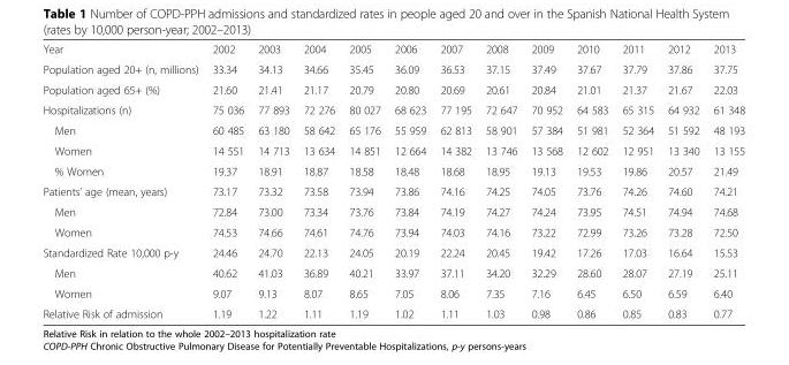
<table><tbody><tr><td>Year</td><td>2002</td><td>2003</td><td>2004</td><td>2005</td><td>2006</td><td>2007</td><td>2008</td><td>2009</td><td>2010</td><td>2011</td><td>2012</td><td>2013</td></tr><tr><td>Population aged 20+ (n, millions)</td><td>33.34</td><td>34.13</td><td>34.66</td><td>35.45</td><td>36.09</td><td>36.53</td><td>37.15</td><td>37.49</td><td>37.67</td><td>37.79</td><td>37.86</td><td>37.75</td></tr><tr><td>Population aged 65+ (%)</td><td>21.60</td><td>21.41</td><td>21.17</td><td>20.79</td><td>20.80</td><td>20.69</td><td>20.61</td><td>20.84</td><td>21.01</td><td>21.37</td><td>21.67</td><td>22.03</td></tr><tr><td>Hospitalizations (n)</td><td>75 036</td><td>77 893</td><td>72 276</td><td>80 027</td><td>68 623</td><td>77 195</td><td>72 647</td><td>70 952</td><td>64 583</td><td>65 315</td><td>64 932</td><td>61 348</td></tr><tr><td>Men</td><td>60 485</td><td>63 180</td><td>58 642</td><td>65 176</td><td>55 959</td><td>62 813</td><td>58 901</td><td>57 384</td><td>51 981</td><td>52 364</td><td>51 592</td><td>48 193</td></tr><tr><td>Women</td><td>14 551</td><td>14 713</td><td>13 634</td><td>14 851</td><td>12 664</td><td>14 382</td><td>13 746</td><td>13 568</td><td>12 602</td><td>12 951</td><td>13 340</td><td>13 155</td></tr><tr><td>% Women</td><td>19.37</td><td>18.91</td><td>18.87</td><td>18.58</td><td>18.48</td><td>18.68</td><td>18.95</td><td>19.13</td><td>19.53</td><td>19.86</td><td>20.57</td><td>21.49</td></tr><tr><td>Patients’ age (mean, years)</td><td>73.17</td><td>73.32</td><td>73.58</td><td>73.94</td><td>73.86</td><td>74.16</td><td>74.25</td><td>74.05</td><td>73.76</td><td>74.26</td><td>74.60</td><td>74.21</td></tr><tr><td>Men</td><td>72.84</td><td>73.00</td><td>73.34</td><td>73.76</td><td>73.84</td><td>74.19</td><td>74.27</td><td>74.24</td><td>73.95</td><td>74.51</td><td>74.94</td><td>74.68</td></tr><tr><td>Women</td><td>74.53</td><td>74.66</td><td>74.61</td><td>74.76</td><td>73.94</td><td>74.03</td><td>74.16</td><td>73.22</td><td>72.99</td><td>73.26</td><td>73.28</td><td>72.50</td></tr><tr><td>Standardized Rate 10,000 p-y</td><td>24.46</td><td>24.70</td><td>22.13</td><td>24.05</td><td>20.19</td><td>22.24</td><td>20.45</td><td>19.42</td><td>17.26</td><td>17.03</td><td>16.64</td><td>15.53</td></tr><tr><td>Men</td><td>40.62</td><td>41.03</td><td>36.89</td><td>40.21</td><td>33.97</td><td>37.11</td><td>34.20</td><td>32.29</td><td>28.60</td><td>28.07</td><td>27.19</td><td>25.11</td></tr><tr><td>Women</td><td>9.07</td><td>9.13</td><td>8.07</td><td>8.65</td><td>7.05</td><td>8.06</td><td>7.35</td><td>7.16</td><td>6.45</td><td>6.50</td><td>6.59</td><td>6.40</td></tr><tr><td>Relative Risk of admission</td><td>1.19</td><td>1.22</td><td>1.11</td><td>1.19</td><td>1.02</td><td>1.11</td><td>1.03</td><td>0.98</td><td>0.86</td><td>0.85</td><td>0.83</td><td>0.77</td></tr></tbody></table>